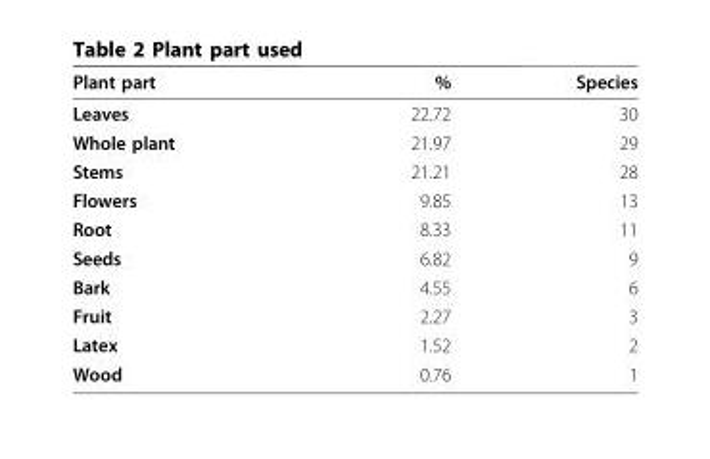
<table><thead><tr><td>Plant part</td><td>%</td><td>Species</td></tr></thead><tbody><tr><td>Leaves</td><td>22.72</td><td>30</td></tr><tr><td>Whole plant</td><td>21.97</td><td>29</td></tr><tr><td>Stems</td><td>21.21</td><td>28</td></tr><tr><td>Flowers</td><td>9.85</td><td>13</td></tr><tr><td>Root</td><td>8.33</td><td>11</td></tr><tr><td>Seeds</td><td>6.82</td><td>9</td></tr><tr><td>Bark</td><td>4.55</td><td>6</td></tr><tr><td>Fruit</td><td>2.27</td><td>3</td></tr><tr><td>Latex</td><td>1.52</td><td>2</td></tr><tr><td>Wood</td><td>0.76</td><td>1</td></tr></tbody></table>